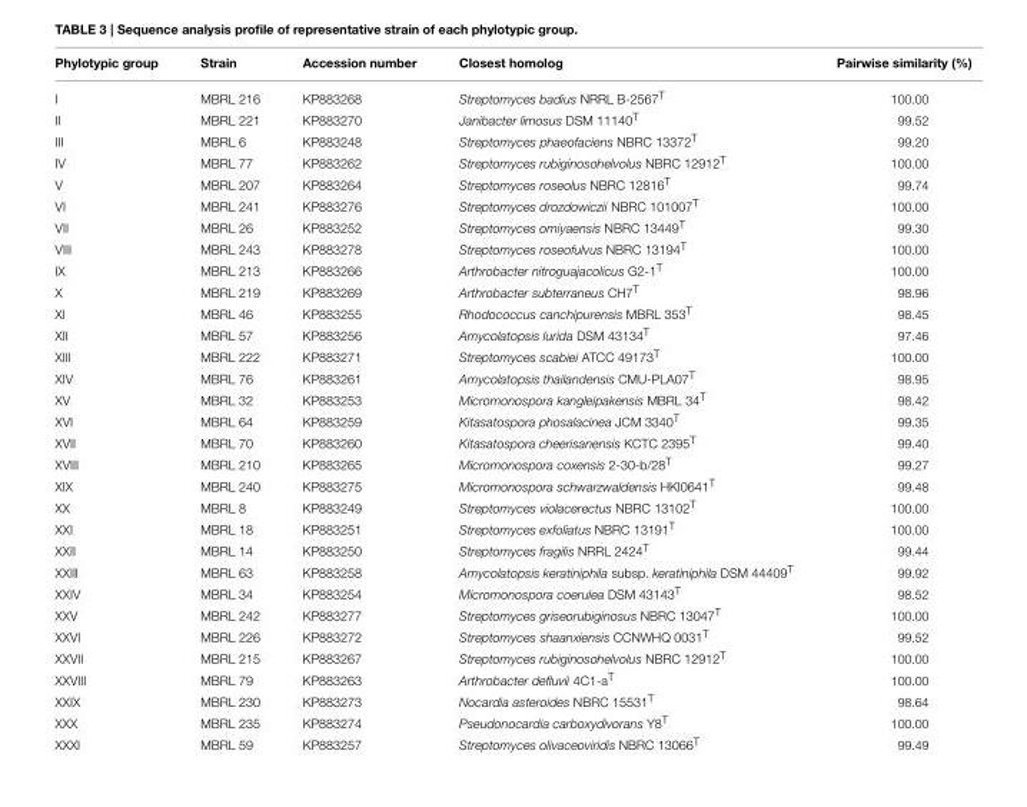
<table><thead><tr><td>Phylotypic group</td><td>Strain</td><td>Accession number</td><td>Closest homolog</td><td>Pairwise similarity (%)</td></tr></thead><tbody><tr><td>I</td><td>MBRL 216</td><td>KP883268</td><td>Streptomyces badius NRRL B-2567<sup>T</sup></td><td>100.00</td></tr><tr><td>II</td><td>MBRL 221</td><td>KP883270</td><td>Janibacter limosus DSM 11140<sup>T</sup></td><td>99.52</td></tr><tr><td>III</td><td>MBRL 6</td><td>KP883248</td><td>Streptomyces phaeofaciens NBRC 13372<sup>T</sup></td><td>99.20</td></tr><tr><td>IV</td><td>MBRL 77</td><td>KP883262</td><td>Streptomyces rubiginosohelvolus NBRC 12912<sup>T</sup></td><td>100.00</td></tr><tr><td>V</td><td>MBRL 207</td><td>KP883264</td><td>Streptomyces roseolus NBRC 12816<sup>T</sup></td><td>99.74</td></tr><tr><td>VI</td><td>MBRL 241</td><td>KP883276</td><td>Streptomyces drozdowiczii NBRC 101007<sup>T</sup></td><td>100.00</td></tr><tr><td>VII</td><td>MBRL 26</td><td>KP883252</td><td>Streptomyces omiyaensis NBRC 13449<sup>T</sup></td><td>99.30</td></tr><tr><td>VIII</td><td>MBRL 243</td><td>KP883278</td><td>Streptomyces roseofulvus NBRC 13194<sup>T</sup></td><td>100.00</td></tr><tr><td>IX</td><td>MBRL 213</td><td>KP883266</td><td>Arthrobacter nitroguajacolicus G2-1<sup>T</sup></td><td>100.00</td></tr><tr><td>X</td><td>MBRL 219</td><td>KP883269</td><td>Arthrobacter subterraneus CH7<sup>T</sup></td><td>98.96</td></tr><tr><td>XI</td><td>MBRL 46</td><td>KP883255</td><td>Rhodococcus canchipurensis MBRL 353<sup>T</sup></td><td>98.45</td></tr><tr><td>XII</td><td>MBRL 57</td><td>KP883256</td><td>Amycolatopsis lurida DSM 43134<sup>T</sup></td><td>97.46</td></tr><tr><td>XIII</td><td>MBRL 222</td><td>KP883271</td><td>Streptomyces scabiei ATCC 49173<sup>T</sup></td><td>100.00</td></tr><tr><td>XIV</td><td>MBRL 76</td><td>KP883261</td><td>Amycolatopsis thailandensis CMU-PLA07<sup>T</sup></td><td>98.95</td></tr><tr><td>XV</td><td>MBRL 32</td><td>KP883253</td><td>Micromonospora kangleipakensis MBRL 34<sup>T</sup></td><td>98.42</td></tr><tr><td>XVI</td><td>MBRL 64</td><td>KP883259</td><td>Kitasatospora phosalacinea JCM 3340<sup>T</sup></td><td>99.35</td></tr><tr><td>XVII</td><td>MBRL 70</td><td>KP883260</td><td>Kitasatospora cheerisanensis KCTC 2395<sup>T</sup></td><td>99.40</td></tr><tr><td>XVIII</td><td>MBRL 210</td><td>KP883265</td><td>Micromonospora coxensis 2-30-b/28<sup>T</sup></td><td>99.27</td></tr><tr><td>XIX</td><td>MBRL 240</td><td>KP883275</td><td>Micromonospora schwarzwaldensis HKI0641<sup>T</sup></td><td>99.48</td></tr><tr><td>XX</td><td>MBRL 8</td><td>KP883249</td><td>Streptomyces violacerectus NBRC 13102<sup>T</sup></td><td>100.00</td></tr><tr><td>XXI</td><td>MBRL 18</td><td>KP883251</td><td>Streptomyces exfoliatus NBRC 13191<sup>T</sup></td><td>100.00</td></tr><tr><td>XXII</td><td>MBRL 14</td><td>KP883250</td><td>Streptomyces fragilis NRRL 2424<sup>T</sup></td><td>99.44</td></tr><tr><td>XXIII</td><td>MBRL 63</td><td>KP883258</td><td>Amycolatopsis keratiniphila subsp. keratiniphila DSM 44409<sup>T</sup></td><td>99.92</td></tr><tr><td>XXIV</td><td>MBRL 34</td><td>KP883254</td><td>Micromonospora coerulea DSM 43143<sup>T</sup></td><td>98.52</td></tr><tr><td>XXV</td><td>MBRL 242</td><td>KP883277</td><td>Streptomyces griseorubiginosus NBRC 13047<sup>T</sup></td><td>100.00</td></tr><tr><td>XXVI</td><td>MBRL 226</td><td>KP883272</td><td>Streptomyces shaanxiensis CCNWHQ 0031<sup>T</sup></td><td>99.52</td></tr><tr><td>XXVII</td><td>MBRL 215</td><td>KP883267</td><td>Streptomyces rubiginosohelvolus NBRC 12912<sup>T</sup></td><td>100.00</td></tr><tr><td>XXVIII</td><td>MBRL 79</td><td>KP883263</td><td>Arthrobacter defluvii 4C1-a<sup>T</sup></td><td>100.00</td></tr><tr><td>XXIX</td><td>MBRL 230</td><td>KP883273</td><td>Nocardia asteroides NBRC 15531<sup>T</sup></td><td>98.64</td></tr><tr><td>XXX</td><td>MBRL 235</td><td>KP883274</td><td>Pseudonocardia carboxydivorans Y8<sup>T</sup></td><td>100.00</td></tr><tr><td>XXXI</td><td>MBRL 59</td><td>KP883257</td><td>Streptomyces olivaceoviridis NBRC 13066<sup>T</sup></td><td>99.49</td></tr></tbody></table>